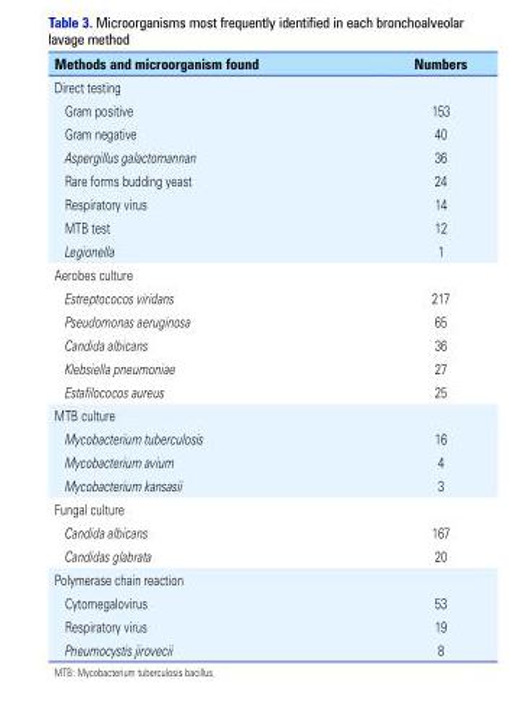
<table><thead><tr><td>Methods and microorganism found</td><td>Numbers</td></tr></thead><tbody><tr><td colspan="2">Direct testing</td></tr><tr><td>Gram positive</td><td>153</td></tr><tr><td>Gram negative</td><td>40</td></tr><tr><td>Aspergillus galactomannan</td><td>36</td></tr><tr><td>Rare forms budding yeast</td><td>24</td></tr><tr><td>Respiratory virus</td><td>14</td></tr><tr><td>MTB test</td><td>12</td></tr><tr><td>Legionella</td><td>1</td></tr><tr><td colspan="2">Aerobes culture</td></tr><tr><td>Estreptococos viridans</td><td>217</td></tr><tr><td>Pseudomonas aeruginosa</td><td>65</td></tr><tr><td>Candida albicans</td><td>36</td></tr><tr><td>Klebsiella pneumoniae</td><td>27</td></tr><tr><td>Estafilococos aureus</td><td>25</td></tr><tr><td colspan="2">MTB culture</td></tr><tr><td>Mycobacterium tuberculosis</td><td>16</td></tr><tr><td>Mycobacterium avium</td><td>4</td></tr><tr><td>Mycobacterium kansasii</td><td>3</td></tr><tr><td colspan="2">Fungal culture</td></tr><tr><td>Candida albicans</td><td>167</td></tr><tr><td>Candidas glabrata</td><td>20</td></tr><tr><td colspan="2">Polymerase chain reaction</td></tr><tr><td>Cytomegalovirus</td><td>53</td></tr><tr><td>Respiratory virus</td><td>19</td></tr><tr><td>Pneumocystis jirovecii</td><td>8</td></tr></tbody></table>